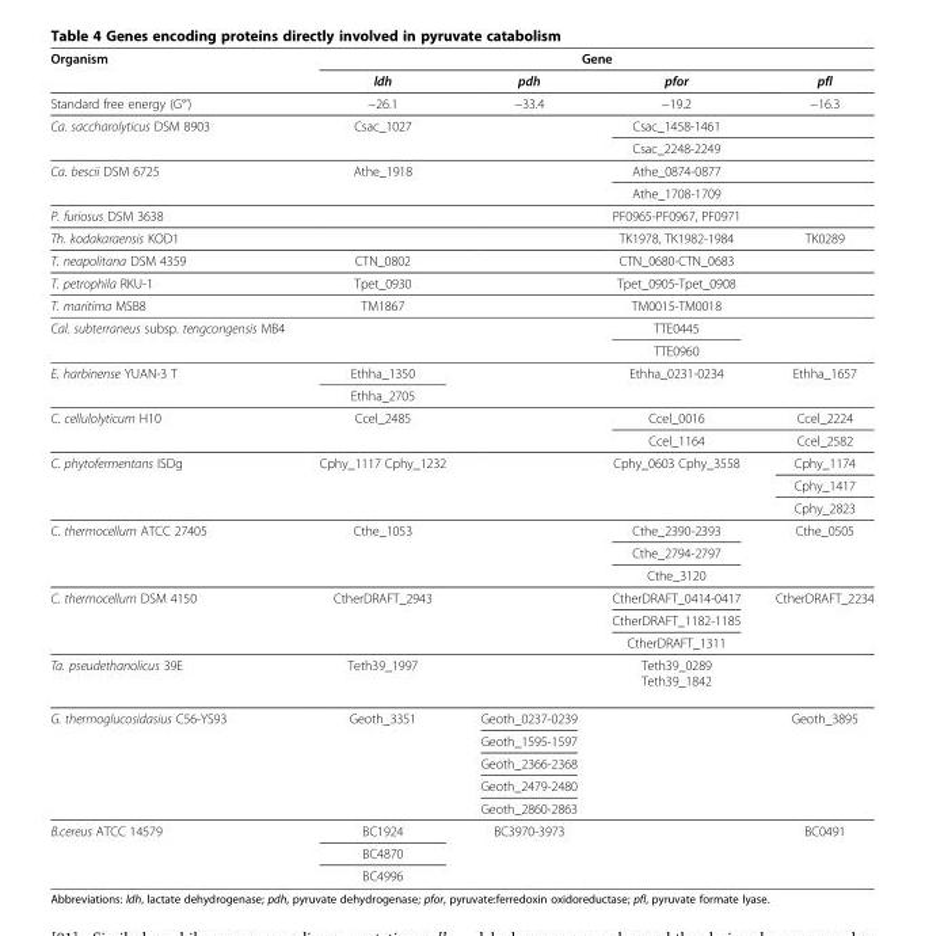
<table><thead><tr><td rowspan="2">Organism</td><td colspan="4">Gene</td></tr><tr><td>ldh</td><td>pdh</td><td>pfor</td><td>pfl</td></tr></thead><tbody><tr><td>Standard free energy (G°’)</td><td>−26.1</td><td>−33.4</td><td>−19.2</td><td>−16.3</td></tr><tr><td rowspan="2">Ca. saccharolyticus DSM 8903</td><td>Csac_1027</td><td></td><td>Csac_1458-1461</td><td></td></tr><tr><td></td><td></td><td>Csac_2248-2249</td><td></td></tr><tr><td rowspan="2">Ca. bescii DSM 6725</td><td>Athe_1918</td><td></td><td>Athe_0874-0877</td><td></td></tr><tr><td></td><td></td><td>Athe_1708-1709</td><td></td></tr><tr><td>P. furiosus DSM 3638</td><td></td><td></td><td>PF0965-PF0967, PF0971</td><td></td></tr><tr><td>Th. kodakaraensis KOD1</td><td></td><td></td><td>TK1978, TK1982-1984</td><td>TK0289</td></tr><tr><td>T. neapolitana DSM 4359</td><td>CTN_0802</td><td></td><td>CTN_0680-CTN_0683</td><td></td></tr><tr><td>T. petrophila RKU-1</td><td>Tpet_0930</td><td></td><td>Tpet_0905-Tpet_0908</td><td></td></tr><tr><td>T. maritima MSB8</td><td>TM1867</td><td></td><td>TM0015-TM0018</td><td></td></tr><tr><td rowspan="2">Cal. subterraneus subsp. tengcongensis MB4</td><td></td><td></td><td>TTE0445</td><td></td></tr><tr><td></td><td></td><td>TTE0960</td><td></td></tr><tr><td rowspan="2">E. harbinense YUAN-3 T</td><td>Ethha_1350</td><td></td><td>Ethha_0231-0234</td><td>Ethha_1657</td></tr><tr><td>Ethha_2705</td><td></td><td></td><td></td></tr><tr><td rowspan="2">C. cellulolyticum H10</td><td>Ccel_2485</td><td></td><td>Ccel_0016</td><td>Ccel_2224</td></tr><tr><td></td><td></td><td>Ccel_1164</td><td>Ccel_2582</td></tr><tr><td rowspan="3">C. phytofermentans ISDg</td><td>Cphy_1117 Cphy_1232</td><td></td><td>Cphy_0603 Cphy_3558</td><td>Cphy_1174</td></tr><tr><td></td><td></td><td></td><td>Cphy_1417</td></tr><tr><td></td><td></td><td></td><td>Cphy_2823</td></tr><tr><td rowspan="3">C. thermocellum ATCC 27405</td><td>Cthe_1053</td><td></td><td>Cthe_2390-2393</td><td>Cthe_0505</td></tr><tr><td></td><td></td><td>Cthe_2794-2797</td><td></td></tr><tr><td></td><td></td><td>Cthe_3120</td><td></td></tr><tr><td rowspan="3">C. thermocellum DSM 4150</td><td>CtherDRAFT_2943</td><td></td><td>CtherDRAFT_0414-0417</td><td>CtherDRAFT_2234</td></tr><tr><td></td><td></td><td>CtherDRAFT_1182-1185</td><td></td></tr><tr><td></td><td></td><td>CtherDRAFT_1311</td><td></td></tr><tr><td rowspan="2">Ta. pseudethanolicus 39E</td><td>Teth39_1997</td><td></td><td>Teth39_0289</td><td></td></tr><tr><td></td><td></td><td>Teth39_1842</td><td></td></tr><tr><td rowspan="5">G. thermoglucosidasius C56-YS93</td><td>Geoth_3351</td><td>Geoth_0237-0239</td><td></td><td>Geoth_3895</td></tr><tr><td></td><td>Geoth_1595-1597</td><td></td><td></td></tr><tr><td></td><td>Geoth_2366-2368</td><td></td><td></td></tr><tr><td></td><td>Geoth_2479-2480</td><td></td><td></td></tr><tr><td></td><td>Geoth_2860-2863</td><td></td><td></td></tr><tr><td rowspan="3">B.cereus ATCC 14579</td><td>BC1924</td><td>BC3970-3973</td><td></td><td>BC0491</td></tr><tr><td>BC4870</td><td></td><td></td><td></td></tr><tr><td>BC4996</td><td></td><td></td><td></td></tr></tbody></table>